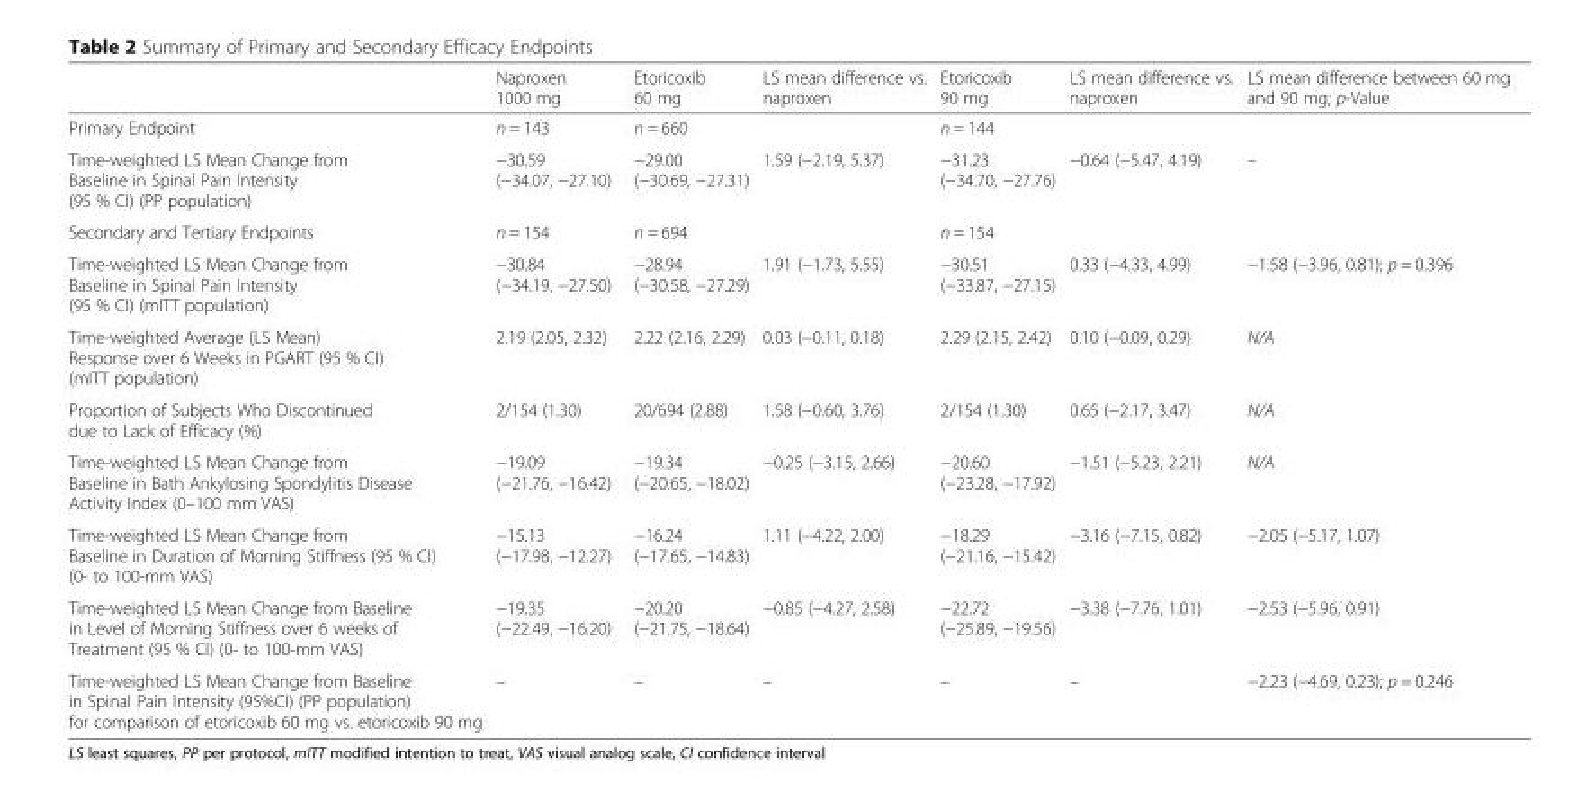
<table><thead><tr><td></td><td>Naproxen 1000 mg</td><td>Etoricoxib 60 mg</td><td>LS mean difference vs. naproxen</td><td>Etoricoxib 90 mg</td><td>LS mean difference vs. naproxen</td><td>LS mean difference between 60 mg and 90 mg; p-Value</td></tr></thead><tbody><tr><td>Primary Endpoint</td><td>n = 143</td><td>n = 660</td><td></td><td>n = 144</td><td></td><td></td></tr><tr><td>Time-weighted LS Mean Change from Baseline in Spinal Pain Intensity (95 % CI) (PP population)</td><td>−30.59 (−34.07, −27.10)</td><td>−29.00 (−30.69, −27.31)</td><td>1.59 (−2.19, 5.37)</td><td>−31.23 (−34.70, −27.76)</td><td>−0.64 (−5.47, 4.19)</td><td>–</td></tr><tr><td>Secondary and Tertiary Endpoints</td><td>n = 154</td><td>n = 694</td><td></td><td>n = 154</td><td></td><td></td></tr><tr><td>Time-weighted LS Mean Change from Baseline in Spinal Pain Intensity (95 % CI) (mITT population)</td><td>−30.84 (−34.19, −27.50)</td><td>−28.94 (−30.58, −27.29)</td><td>1.91 (−1.73, 5.55)</td><td>−30.51 (−33.87, −27.15)</td><td>0.33 (−4.33, 4.99)</td><td>−1.58 (−3.96, 0.81); p = 0.396</td></tr><tr><td>Time-weighted Average (LS Mean) Response over 6 Weeks in PGART (95 % CI) (mITT population)</td><td>2.19 (2.05, 2.32)</td><td>2.22 (2.16, 2.29)</td><td>0.03 (−0.11, 0.18)</td><td>2.29 (2.15, 2.42)</td><td>0.10 (−0.09, 0.29)</td><td>N/A</td></tr><tr><td>Proportion of Subjects Who Discontinued due to Lack of Efficacy (%)</td><td>2/154 (1.30)</td><td>20/694 (2.88)</td><td>1.58 (−0.60, 3.76)</td><td>2/154 (1.30)</td><td>0.65 (−2.17, 3.47)</td><td>N/A</td></tr><tr><td>Time-weighted LS Mean Change from Baseline in Bath Ankylosing Spondylitis Disease Activity Index (0–100 mm VAS)</td><td>−19.09 (−21.76, −16.42)</td><td>−19.34 (−20.65, −18.02)</td><td>−0.25 (−3.15, 2.66)</td><td>−20.60 (−23.28, −17.92)</td><td>−1.51 (−5.23, 2.21)</td><td>N/A</td></tr><tr><td>Time-weighted LS Mean Change from Baseline in Duration of Morning Stiffness (95 % CI) (0- to 100-mm VAS)</td><td>−15.13 (−17.98, −12.27)</td><td>−16.24 (−17.65, −14.83)</td><td>1.11 (−4.22, 2.00)</td><td>−18.29 (−21.16, −15.42)</td><td>−3.16 (−7.15, 0.82)</td><td>−2.05 (−5.17, 1.07)</td></tr><tr><td>Time-weighted LS Mean Change from Baseline in Level of Morning Stiffness over 6 weeks of Treatment (95 % CI) (0- to 100-mm VAS)</td><td>−19.35 (−22.49, −16.20)</td><td>−20.20 (−21.75, −18.64)</td><td>−0.85 (−4.27, 2.58)</td><td>−22.72 (−25.89, −19.56)</td><td>−3.38 (−7.76, 1.01)</td><td>−2.53 (−5.96, 0.91)</td></tr><tr><td>Time-weighted LS Mean Change from Baseline in Spinal Pain Intensity (95%CI) (PP population) for comparison of etoricoxib 60 mg vs. etoricoxib 90 mg</td><td>–</td><td>–</td><td>–</td><td>–</td><td>–</td><td>−2.23 (−4.69, 0.23); p = 0.246</td></tr></tbody></table>